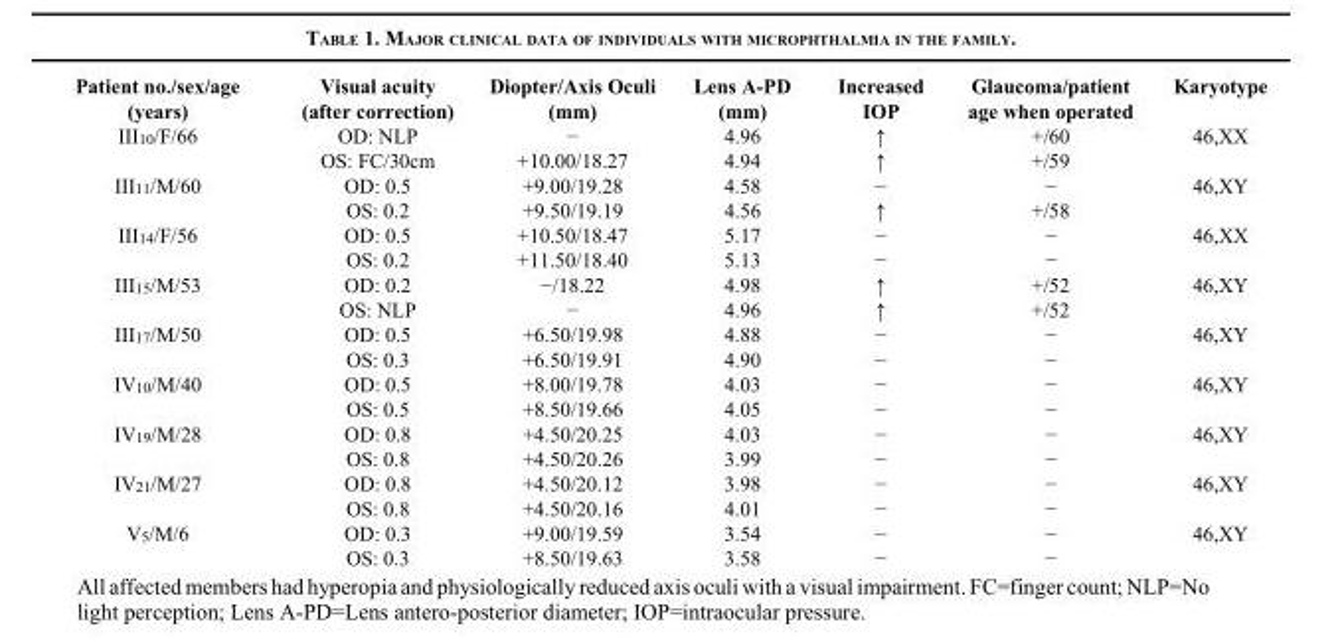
<table><thead><tr><td>Patient no./sex/age (years)</td><td>Visual acuity (after correction)</td><td>Diopter/Axis Oculi (mm)</td><td>Lens A-PD (mm)</td><td>Increased IOP</td><td>Glaucoma/patient age when operated</td><td>Karyotype</td></tr></thead><tbody><tr><td rowspan="2">III<sub>10</sub>/F/66</td><td>OD: NLP</td><td>−</td><td>4.96</td><td>↑</td><td>+/60</td><td>46,XX</td></tr><tr><td>OS: FC/30cm</td><td>+10.00/18.27</td><td>4.94</td><td>↑</td><td>+/59</td><td></td></tr><tr><td rowspan="2">III<sub>11</sub>/M/60</td><td>OD: 0.5</td><td>+9.00/19.28</td><td>4.58</td><td>−</td><td>−</td><td>46,XY</td></tr><tr><td>OS: 0.2</td><td>+9.50/19.19</td><td>4.56</td><td>↑</td><td>+/58</td><td></td></tr><tr><td rowspan="2">III<sub>14</sub>/F/56</td><td>OD: 0.5</td><td>+10.50/18.47</td><td>5.17</td><td>−</td><td>−</td><td>46,XX</td></tr><tr><td>OS: 0.2</td><td>+11.50/18.40</td><td>5.13</td><td>−</td><td>−</td><td></td></tr><tr><td rowspan="2">III<sub>15</sub>/M/53</td><td>OD: 0.2</td><td>−/18.22</td><td>4.98</td><td>↑</td><td>+/52</td><td>46,XY</td></tr><tr><td>OS: NLP</td><td>−</td><td>4.96</td><td>↑</td><td>+/52</td><td></td></tr><tr><td rowspan="2">III<sub>17</sub>/M/50</td><td>OD: 0.5</td><td>+6.50/19.98</td><td>4.88</td><td>−</td><td>−</td><td>46,XY</td></tr><tr><td>OS: 0.3</td><td>+6.50/19.91</td><td>4.90</td><td>−</td><td>−</td><td></td></tr><tr><td rowspan="2">IV<sub>10</sub>/M/40</td><td>OD: 0.5</td><td>+8.00/19.78</td><td>4.03</td><td>−</td><td>−</td><td>46,XY</td></tr><tr><td>OS: 0.5</td><td>+8.50/19.66</td><td>4.05</td><td>−</td><td>−</td><td></td></tr><tr><td rowspan="2">IV<sub>19</sub>/M/28</td><td>OD: 0.8</td><td>+4.50/20.25</td><td>4.03</td><td>−</td><td>−</td><td>46,XY</td></tr><tr><td>OS: 0.8</td><td>+4.50/20.26</td><td>3.99</td><td>−</td><td>−</td><td></td></tr><tr><td rowspan="2">IV<sub>21</sub>/M/27</td><td>OD: 0.8</td><td>+4.50/20.12</td><td>3.98</td><td>−</td><td>−</td><td>46,XY</td></tr><tr><td>OS: 0.8</td><td>+4.50/20.16</td><td>4.01</td><td>−</td><td>−</td><td></td></tr><tr><td rowspan="2">V<sub>5</sub>/M/6</td><td>OD: 0.3</td><td>+9.00/19.59</td><td>3.54</td><td>−</td><td>−</td><td>46,XY</td></tr><tr><td>OS: 0.3</td><td>+8.50/19.63</td><td>3.58</td><td>−</td><td>−</td><td></td></tr></tbody></table>